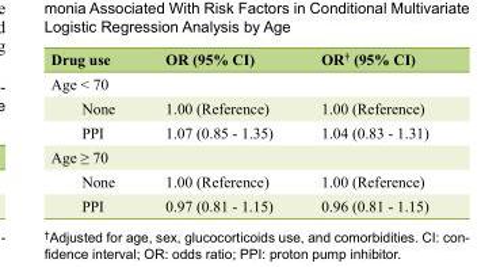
<table><thead><tr><td>Drug use</td><td>OR (95% CI)</td><td>OR<sup>†</sup> (95% CI)</td></tr></thead><tbody><tr><td colspan="3">Age &lt; 70</td></tr><tr><td>None</td><td>1.00 (Reference)</td><td>1.00 (Reference)</td></tr><tr><td>PPI</td><td>1.07 (0.85 - 1.35)</td><td>1.04 (0.83 - 1.31)</td></tr><tr><td colspan="3">Age ≥ 70</td></tr><tr><td>None</td><td>1.00 (Reference)</td><td>1.00 (Reference)</td></tr><tr><td>PPI</td><td>0.97 (0.81 - 1.15)</td><td>0.96 (0.81 - 1.15)</td></tr></tbody></table>